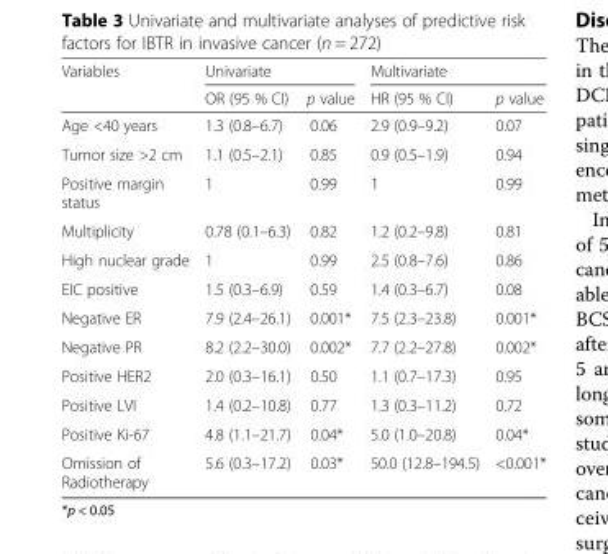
<table><thead><tr><td rowspan="2">Variables</td><td colspan="2">Univariate</td><td colspan="2">Multivariate</td></tr><tr><td>OR (95 % CI)</td><td>p value</td><td>HR (95 % CI)</td><td>p value</td></tr></thead><tbody><tr><td>Age &lt;40 years</td><td>1.3 (0.8–6.7)</td><td>0.06</td><td>2.9 (0.9–9.2)</td><td>0.07</td></tr><tr><td>Tumor size &gt;2 cm</td><td>1.1 (0.5–2.1)</td><td>0.85</td><td>0.9 (0.5–1.9)</td><td>0.94</td></tr><tr><td>Positive margin status</td><td>1</td><td>0.99</td><td>1</td><td>0.99</td></tr><tr><td>Multiplicity</td><td>0.78 (0.1–6.3)</td><td>0.82</td><td>1.2 (0.2–9.8)</td><td>0.81</td></tr><tr><td>High nuclear grade</td><td>1</td><td>0.99</td><td>2.5 (0.8–7.6)</td><td>0.86</td></tr><tr><td>EIC positive</td><td>1.5 (0.3–6.9)</td><td>0.59</td><td>1.4 (0.3–6.7)</td><td>0.08</td></tr><tr><td>Negative ER</td><td>7.9 (2.4–26.1)</td><td>0.001*</td><td>7.5 (2.3–23.8)</td><td>0.001*</td></tr><tr><td>Negative PR</td><td>8.2 (2.2–30.0)</td><td>0.002*</td><td>7.7 (2.2–27.8)</td><td>0.002*</td></tr><tr><td>Positive HER2</td><td>2.0 (0.3–16.1)</td><td>0.50</td><td>1.1 (0.7–17.3)</td><td>0.95</td></tr><tr><td>Positive LVI</td><td>1.4 (0.2–10.8)</td><td>0.77</td><td>1.3 (0.3–11.2)</td><td>0.72</td></tr><tr><td>Positive Ki-67</td><td>4.8 (1.1–21.7)</td><td>0.04*</td><td>5.0 (1.0–20.8)</td><td>0.04*</td></tr><tr><td>Omission of Radiotherapy</td><td>5.6 (0.3–17.2)</td><td>0.03*</td><td>50.0 (12.8–194.5)</td><td>&lt;0.001*</td></tr></tbody></table>